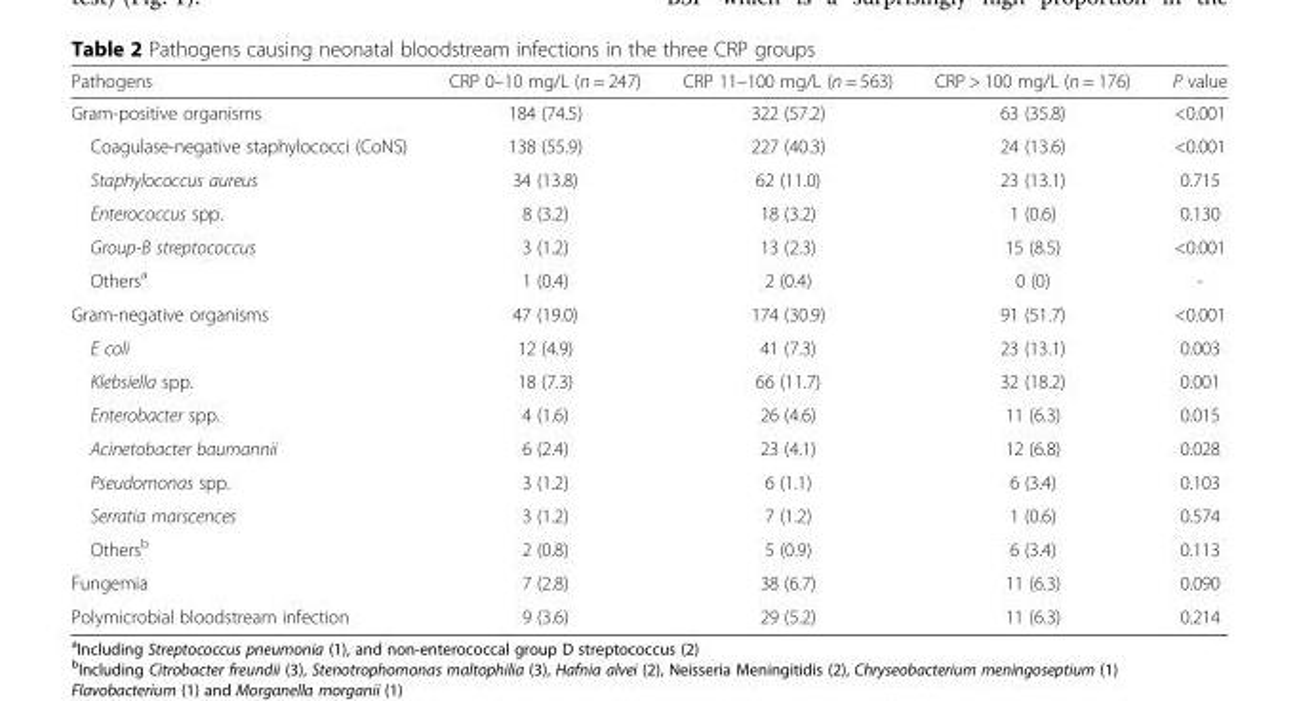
<table><thead><tr><td>Pathogens</td><td>CRP 0–10 mg/L (n = 247)</td><td>CRP 11–100 mg/L (n = 563)</td><td>CRP &gt; 100 mg/L (n = 176)</td><td>P value</td></tr></thead><tbody><tr><td>Gram-positive organisms</td><td>184 (74.5)</td><td>322 (57.2)</td><td>63 (35.8)</td><td>&lt;0.001</td></tr><tr><td>Coagulase-negative staphylococci (CoNS)</td><td>138 (55.9)</td><td>227 (40.3)</td><td>24 (13.6)</td><td>&lt;0.001</td></tr><tr><td>Staphylococcus aureus</td><td>34 (13.8)</td><td>62 (11.0)</td><td>23 (13.1)</td><td>0.715</td></tr><tr><td>Enterococcus spp.</td><td>8 (3.2)</td><td>18 (3.2)</td><td>1 (0.6)</td><td>0.130</td></tr><tr><td>Group-B streptococcus</td><td>3 (1.2)</td><td>13 (2.3)</td><td>15 (8.5)</td><td>&lt;0.001</td></tr><tr><td>Others<sup>a</sup></td><td>1 (0.4)</td><td>2 (0.4)</td><td>0 (0)</td><td>-</td></tr><tr><td>Gram-negative organisms</td><td>47 (19.0)</td><td>174 (30.9)</td><td>91 (51.7)</td><td>&lt;0.001</td></tr><tr><td>E coli</td><td>12 (4.9)</td><td>41 (7.3)</td><td>23 (13.1)</td><td>0.003</td></tr><tr><td>Klebsiella spp.</td><td>18 (7.3)</td><td>66 (11.7)</td><td>32 (18.2)</td><td>0.001</td></tr><tr><td>Enterobacter spp.</td><td>4 (1.6)</td><td>26 (4.6)</td><td>11 (6.3)</td><td>0.015</td></tr><tr><td>Acinetobacter baumannii</td><td>6 (2.4)</td><td>23 (4.1)</td><td>12 (6.8)</td><td>0.028</td></tr><tr><td>Pseudomonas spp.</td><td>3 (1.2)</td><td>6 (1.1)</td><td>6 (3.4)</td><td>0.103</td></tr><tr><td>Serratia marscences</td><td>3 (1.2)</td><td>7 (1.2)</td><td>1 (0.6)</td><td>0.574</td></tr><tr><td>Others<sup>b</sup></td><td>2 (0.8)</td><td>5 (0.9)</td><td>6 (3.4)</td><td>0.113</td></tr><tr><td>Fungemia</td><td>7 (2.8)</td><td>38 (6.7)</td><td>11 (6.3)</td><td>0.090</td></tr><tr><td>Polymicrobial bloodstream infection</td><td>9 (3.6)</td><td>29 (5.2)</td><td>11 (6.3)</td><td>0.214</td></tr></tbody></table>